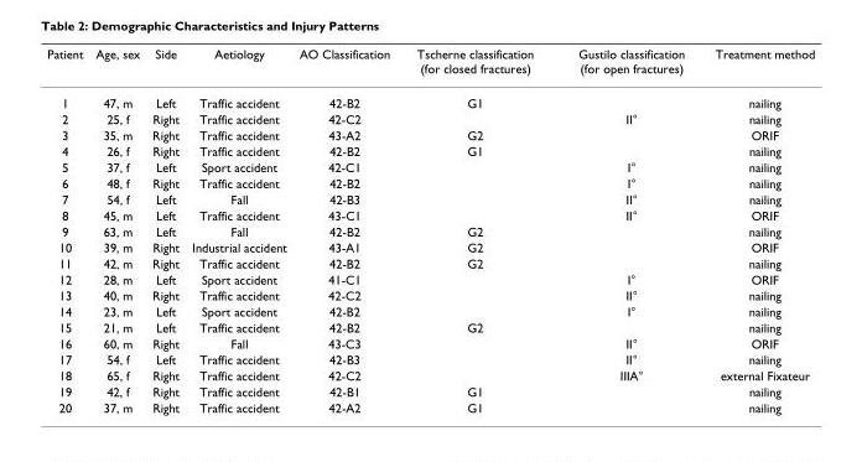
<table><thead><tr><td>Patient</td><td>Age, sex</td><td>Side</td><td>Aetiology</td><td>AO Classification</td><td>Tscherne classification (for closed fractures)</td><td>Gustilo classification (for open fractures)</td><td>Treatment method</td></tr></thead><tbody><tr><td>1</td><td>47, m</td><td>Left</td><td>Traffic accident</td><td>42-B2</td><td>G1</td><td></td><td>nailing</td></tr><tr><td>2</td><td>25, f</td><td>Right</td><td>Traffic accident</td><td>42-C2</td><td></td><td>II°</td><td>nailing</td></tr><tr><td>3</td><td>35, m</td><td>Right</td><td>Traffic accident</td><td>43-A2</td><td>G2</td><td></td><td>ORIF</td></tr><tr><td>4</td><td>26, f</td><td>Right</td><td>Traffic accident</td><td>42-B2</td><td>G1</td><td></td><td>nailing</td></tr><tr><td>5</td><td>37, f</td><td>Left</td><td>Sport accident</td><td>42-C1</td><td></td><td>I°</td><td>nailing</td></tr><tr><td>6</td><td>48, f</td><td>Right</td><td>Traffic accident</td><td>42-B2</td><td></td><td>I°</td><td>nailing</td></tr><tr><td>7</td><td>54, f</td><td>Left</td><td>Fall</td><td>42-B3</td><td></td><td>II°</td><td>nailing</td></tr><tr><td>8</td><td>45, m</td><td>Left</td><td>Traffic accident</td><td>43-C1</td><td></td><td>II°</td><td>ORIF</td></tr><tr><td>9</td><td>63, m</td><td>Left</td><td>Fall</td><td>42-B2</td><td>G2</td><td></td><td>nailing</td></tr><tr><td>10</td><td>39, m</td><td>Right</td><td>Industrial accident</td><td>43-A1</td><td>G2</td><td></td><td>ORIF</td></tr><tr><td>11</td><td>42, m</td><td>Right</td><td>Traffic accident</td><td>42-B2</td><td>G2</td><td></td><td>nailing</td></tr><tr><td>12</td><td>28, m</td><td>Left</td><td>Sport accident</td><td>41-C1</td><td></td><td>I°</td><td>ORIF</td></tr><tr><td>13</td><td>40, m</td><td>Right</td><td>Traffic accident</td><td>42-C2</td><td></td><td>II°</td><td>nailing</td></tr><tr><td>14</td><td>23, m</td><td>Left</td><td>Sport accident</td><td>42-B2</td><td></td><td>I°</td><td>nailing</td></tr><tr><td>15</td><td>21, m</td><td>Left</td><td>Traffic accident</td><td>42-B2</td><td>G2</td><td></td><td>nailing</td></tr><tr><td>16</td><td>60, m</td><td>Right</td><td>Fall</td><td>43-C3</td><td></td><td>II°</td><td>ORIF</td></tr><tr><td>17</td><td>54, f</td><td>Left</td><td>Traffic accident</td><td>42-B3</td><td></td><td>II°</td><td>nailing</td></tr><tr><td>18</td><td>65, f</td><td>Right</td><td>Traffic accident</td><td>42-C2</td><td></td><td>IIIA°</td><td>external Fixateur</td></tr><tr><td>19</td><td>42, f</td><td>Right</td><td>Traffic accident</td><td>42-B1</td><td>G1</td><td></td><td>nailing</td></tr><tr><td>20</td><td>37, m</td><td>Right</td><td>Traffic accident</td><td>42-A2</td><td>G1</td><td></td><td>nailing</td></tr></tbody></table>